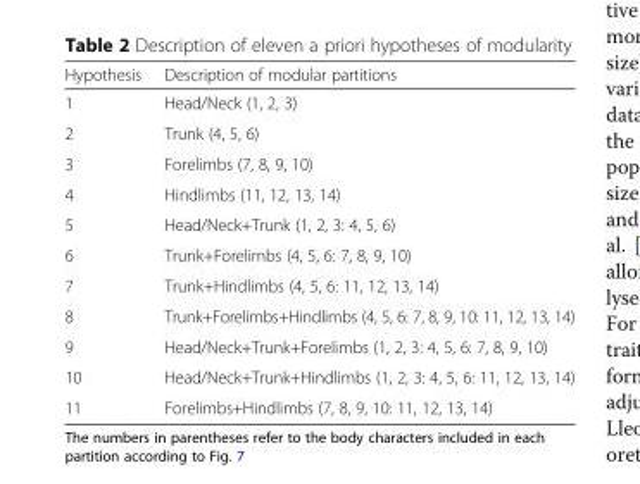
<table><thead><tr><td>Hypothesis</td><td>Description of modular partitions</td></tr></thead><tbody><tr><td>1</td><td>Head/Neck (1, 2, 3)</td></tr><tr><td>2</td><td>Trunk (4, 5, 6)</td></tr><tr><td>3</td><td>Forelimbs (7, 8, 9, 10)</td></tr><tr><td>4</td><td>Hindlimbs (11, 12, 13, 14)</td></tr><tr><td>5</td><td>Head/Neck+Trunk (1, 2, 3: 4, 5, 6)</td></tr><tr><td>6</td><td>Trunk+Forelimbs (4, 5, 6: 7, 8, 9, 10)</td></tr><tr><td>7</td><td>Trunk+Hindlimbs (4, 5, 6: 11, 12, 13, 14)</td></tr><tr><td>8</td><td>Trunk+Forelimbs+Hindlimbs (4, 5, 6: 7, 8, 9, 10: 11, 12, 13, 14)</td></tr><tr><td>9</td><td>Head/Neck+Trunk+Forelimbs (1, 2, 3: 4, 5, 6: 7, 8, 9, 10)</td></tr><tr><td>10</td><td>Head/Neck+Trunk+Hindlimbs (1, 2, 3: 4, 5, 6: 11, 12, 13, 14)</td></tr><tr><td>11</td><td>Forelimbs+Hindlimbs (7, 8, 9, 10: 11, 12, 13, 14)</td></tr></tbody></table>